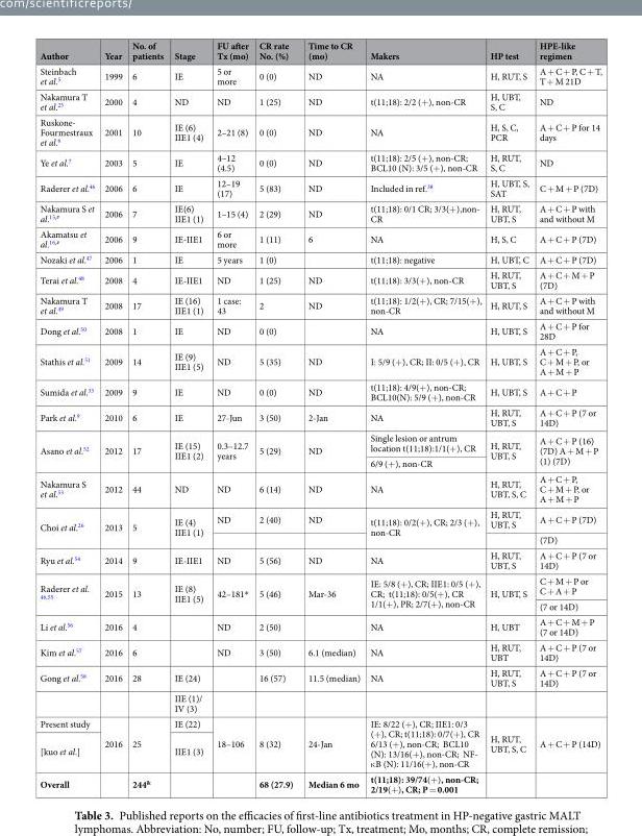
<table><thead><tr><td>Author</td><td>Year</td><td>No. of patients</td><td>Stage</td><td>FU after Tx (mo)</td><td>CR rate No. (%)</td><td>Time to CR (mo)</td><td>Makers</td><td>HP test</td><td>HPE-like regimen</td></tr></thead><tbody><tr><td>Steinbach et al.<sup>5</sup></td><td>1999</td><td>6</td><td>IE</td><td>5 or more</td><td>0 (0)</td><td>ND</td><td>NA</td><td>H, RUT, S</td><td>A + C + P, C + T, T + M 21D</td></tr><tr><td>Nakamura T et al.<sup>25</sup></td><td>2000</td><td>4</td><td>ND</td><td>ND</td><td>1 (25)</td><td>ND</td><td>t(11;18): 2/2 (+), non-CR</td><td>H, UBT, S, C</td><td>ND</td></tr><tr><td>Ruskone- Fourmestraux et al.<sup>6</sup></td><td>2001</td><td>10</td><td>IE (6) IIE1 (4)</td><td>2–21 (8)</td><td>0 (0)</td><td>ND</td><td>NA</td><td>H, S, C, PCR</td><td>A + C + P for 14 days</td></tr><tr><td>Ye et al.<sup>7</sup></td><td>2003</td><td>5</td><td>IE</td><td>4–12 (4.5)</td><td>0 (0)</td><td>ND</td><td>t(11;18): 2/5 (+), non-CR; BCL10 (N): 3/5 (+), non-CR</td><td>H, RUT, S, C</td><td>ND</td></tr><tr><td>Raderer et al.<sup>46</sup></td><td>2006</td><td>6</td><td>IE</td><td>12–19 (17)</td><td>5 (83)</td><td>ND</td><td>Included in ref.<sup>38</sup></td><td>H, UBT, S, SAT</td><td>C + M + P (7D)</td></tr><tr><td>Nakamura S et al.<sup>15,#</sup></td><td>2006</td><td>7</td><td>IE(6) IIE1 (1)</td><td>1–15 (4)</td><td>2 (29)</td><td>ND</td><td>t(11;18): 0/1 CR; 3/3(+),non- CR</td><td>H, RUT, UBT, S</td><td>A + C + P with and without M</td></tr><tr><td>Akamatsu et al.<sup>16,#</sup></td><td>2006</td><td>9</td><td>IE-IIE1</td><td>6 or more</td><td>1 (11)</td><td>6</td><td>NA</td><td>H, S, C</td><td>A + C + P (7D)</td></tr><tr><td>Nozaki et al.<sup>47</sup></td><td>2006</td><td>1</td><td>IE</td><td>5 years</td><td>1 (0)</td><td></td><td>t(11;18): negative</td><td>H, UBT, C</td><td>A + C + P (7D)</td></tr><tr><td>Terai et al.<sup>48</sup></td><td>2008</td><td>4</td><td>IE-IIE1</td><td>ND</td><td>1 (25)</td><td>ND</td><td>t(11;18): 3/3(+), non-CR</td><td>H, RUT, UBT, S</td><td>A + C + M + P (7D)</td></tr><tr><td>Nakamura T et al.<sup>49</sup></td><td>2008</td><td>17</td><td>IE (16) IIE1 (1)</td><td>1 case: 43</td><td>2</td><td>ND</td><td>t(11;18): 1/2(+), CR; 7/15(+), non-CR</td><td>H, RUT, S</td><td>A + C + P with and without M</td></tr><tr><td>Dong et al.<sup>50</sup></td><td>2008</td><td>1</td><td>IE</td><td>ND</td><td>0 (0)</td><td></td><td>NA</td><td>H, UBT, S</td><td>A + C + P for 28D</td></tr><tr><td>Stathis et al.<sup>51</sup></td><td>2009</td><td>14</td><td>IE (9) IIE1 (5)</td><td>ND</td><td>5 (35)</td><td>ND</td><td>I: 5/9 (+), CR; II: 0/5 (+), CR</td><td>H, UBT, S</td><td>A + C + P, C + M + P, or A + M + P</td></tr><tr><td>Sumida et al.<sup>33</sup></td><td>2009</td><td>9</td><td>IE</td><td>ND</td><td>0 (0)</td><td>ND</td><td>t(11;18): 4/9(+), non-CR; BCL10(N): 5/9 (+), non-CR</td><td>H, UBT, S</td><td>A + C + P</td></tr><tr><td>Park et al.<sup>9</sup></td><td>2010</td><td>6</td><td>IE</td><td>27-Jun</td><td>3 (50)</td><td>2-Jan</td><td>NA</td><td>H, RUT, UBT, S</td><td>A + C + P (7 or 14D)</td></tr><tr><td rowspan="2">Asano et al.<sup>52</sup></td><td rowspan="2">2012</td><td rowspan="2">17</td><td rowspan="2">IE (15) IIE1 (2)</td><td rowspan="2">0.3–12.7 years</td><td rowspan="2">5 (29)</td><td rowspan="2">ND</td><td>Single lesion or antrum location t(11;18):1/1(+), CR</td><td rowspan="2">H, RUT, UBT, S</td><td rowspan="2">A + C + P (16) (7D) A + M + P (1) (7D)</td></tr><tr><td>6/9 (+), non-CR</td></tr><tr><td>Nakamura S et al.<sup>53</sup></td><td>2012</td><td>44</td><td>ND</td><td>ND</td><td>6 (14)</td><td>ND</td><td>NA</td><td>H, RUT, UBT, S, C</td><td>A + C + P, C + M + P, or A + M + P</td></tr><tr><td rowspan="2">Choi et al.<sup>26</sup></td><td rowspan="2">2013</td><td rowspan="2">5</td><td rowspan="2">IE (4) IIE1 (1)</td><td>ND</td><td>2 (40)</td><td>ND</td><td rowspan="2">t(11;18): 0/2(+), CR; 2/3 (+), non-CR</td><td>H, RUT, UBT, S</td><td>A + C + P (7D)</td></tr><tr><td></td><td></td><td></td><td></td><td>(7D)</td></tr><tr><td>Ryu et al.<sup>54</sup></td><td>2014</td><td>9</td><td>IE-IIE1</td><td>ND</td><td>5 (56)</td><td>ND</td><td>NA</td><td>H, RUT, UBT, S</td><td>A + C + P (7 or 14D)</td></tr><tr><td rowspan="2">Raderer et al. <sup>46,55</sup></td><td rowspan="2">2015</td><td rowspan="2">13</td><td rowspan="2">IE (8) IIE1 (5)</td><td rowspan="2">42–181*</td><td rowspan="2">5 (46)</td><td rowspan="2">Mar-36</td><td rowspan="2">IE: 5/8 (+), CR; IIE1: 0/5 (+), CR; t(11;18): 0/5(+), CR 1/1(+), PR; 2/7(+), non-CR</td><td rowspan="2">H, UBT, S</td><td>C + M + P or C + A + P</td></tr><tr><td>(7 or 14D)</td></tr><tr><td>Li et al.<sup>56</sup></td><td>2016</td><td>4</td><td></td><td>ND</td><td>2 (50)</td><td></td><td>NA</td><td>H, UBT</td><td>A + C + M + P (7 or 14D)</td></tr><tr><td>Kim et al.<sup>57</sup></td><td>2016</td><td>6</td><td></td><td>ND</td><td>3 (50)</td><td>6.1 (median)</td><td>NA</td><td>H, RUT, UBT</td><td>A + C + P (7 or 14D)</td></tr><tr><td rowspan="2">Gong et al.<sup>58</sup></td><td>2016</td><td>28</td><td>IE (24)</td><td></td><td>16 (57)</td><td>11.5 (median)</td><td>NA</td><td>H, RUT, UBT, S</td><td>A + C + P (7 or 14D)</td></tr><tr><td></td><td></td><td>IIE (1)/ IV (3)</td><td></td><td></td><td></td><td></td><td></td><td></td></tr><tr><td>Present study</td><td rowspan="2">2016</td><td rowspan="2">25</td><td>IE (22)</td><td rowspan="2">18–106</td><td rowspan="2">8 (32)</td><td rowspan="2">24-Jan</td><td rowspan="2">IE: 8/22 (+), CR; IIE1: 0/3 (+), CR; t(11;18): 0/7(+), CR 6/13 (+), non-CR; BCL10 (N): 13/16(+), non-CR; NF- κB (N): 11/16(+), non-CR</td><td rowspan="2">H, RUT, UBT, S, C</td><td rowspan="2">A + C + P (14D)</td></tr><tr><td>[kuo et al.]</td><td>IIE1 (3)</td></tr><tr><td>Overall</td><td></td><td>244<sup>&amp;</sup></td><td></td><td></td><td>68 (27.9)</td><td>Median 6 mo</td><td>t(11;18): 39/74(+), non-CR; 2/19(+), CR; P = 0.001</td><td></td><td></td></tr></tbody></table>